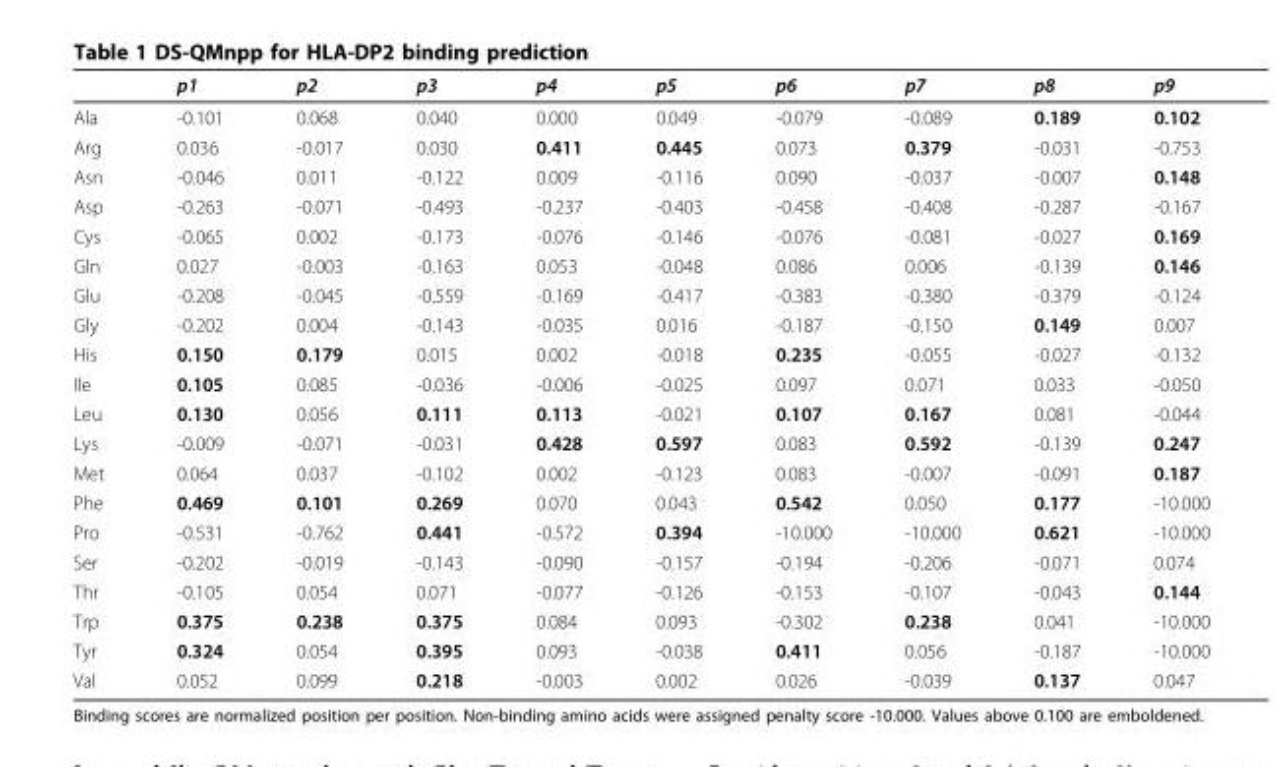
<table><thead><tr><td></td><td>p1</td><td>p2</td><td>p3</td><td>p4</td><td>p5</td><td>p6</td><td>p7</td><td>p8</td><td>p9</td></tr></thead><tbody><tr><td>Ala</td><td>-0.101</td><td>0.068</td><td>0.040</td><td>0.000</td><td>0.049</td><td>-0.079</td><td>-0.089</td><td>0.189</td><td>0.102</td></tr><tr><td>Arg</td><td>0.036</td><td>-0.017</td><td>0.030</td><td>0.411</td><td>0.445</td><td>0.073</td><td>0.379</td><td>-0.031</td><td>-0.753</td></tr><tr><td>Asn</td><td>-0.046</td><td>0.011</td><td>-0.122</td><td>0.009</td><td>-0.116</td><td>0.090</td><td>-0.037</td><td>-0.007</td><td>0.148</td></tr><tr><td>Asp</td><td>-0.263</td><td>-0.071</td><td>-0.493</td><td>-0.237</td><td>-0.403</td><td>-0.458</td><td>-0.408</td><td>-0.287</td><td>-0.167</td></tr><tr><td>Cys</td><td>-0.065</td><td>0.002</td><td>-0.173</td><td>-0.076</td><td>-0.146</td><td>-0.076</td><td>-0.081</td><td>-0.027</td><td>0.169</td></tr><tr><td>Gln</td><td>0.027</td><td>-0.003</td><td>-0.163</td><td>0.053</td><td>-0.048</td><td>0.086</td><td>0.006</td><td>-0.139</td><td>0.146</td></tr><tr><td>Glu</td><td>-0.208</td><td>-0.045</td><td>-0.559</td><td>-0.169</td><td>-0.417</td><td>-0.383</td><td>-0.380</td><td>-0.379</td><td>-0.124</td></tr><tr><td>Gly</td><td>-0.202</td><td>0.004</td><td>-0.143</td><td>-0.035</td><td>0.016</td><td>-0.187</td><td>-0.150</td><td>0.149</td><td>0.007</td></tr><tr><td>His</td><td>0.150</td><td>0.179</td><td>0.015</td><td>0.002</td><td>-0.018</td><td>0.235</td><td>-0.055</td><td>-0.027</td><td>-0.132</td></tr><tr><td>Ile</td><td>0.105</td><td>0.085</td><td>-0.036</td><td>-0.006</td><td>-0.025</td><td>0.097</td><td>0.071</td><td>0.033</td><td>-0.050</td></tr><tr><td>Leu</td><td>0.130</td><td>0.056</td><td>0.111</td><td>0.113</td><td>-0.021</td><td>0.107</td><td>0.167</td><td>0.081</td><td>-0.044</td></tr><tr><td>Lys</td><td>-0.009</td><td>-0.071</td><td>-0.031</td><td>0.428</td><td>0.597</td><td>0.083</td><td>0.592</td><td>-0.139</td><td>0.247</td></tr><tr><td>Met</td><td>0.064</td><td>0.037</td><td>-0.102</td><td>0.002</td><td>-0.123</td><td>0.083</td><td>-0.007</td><td>-0.091</td><td>0.187</td></tr><tr><td>Phe</td><td>0.469</td><td>0.101</td><td>0.269</td><td>0.070</td><td>0.043</td><td>0.542</td><td>0.050</td><td>0.177</td><td>-10.000</td></tr><tr><td>Pro</td><td>-0.531</td><td>-0.762</td><td>0.441</td><td>-0.572</td><td>0.394</td><td>-10.000</td><td>-10.000</td><td>0.621</td><td>-10.000</td></tr><tr><td>Ser</td><td>-0.202</td><td>-0.019</td><td>-0.143</td><td>-0.090</td><td>-0.157</td><td>-0.194</td><td>-0.206</td><td>-0.071</td><td>0.074</td></tr><tr><td>Thr</td><td>-0.105</td><td>0.054</td><td>0.071</td><td>-0.077</td><td>-0.126</td><td>-0.153</td><td>-0.107</td><td>-0.043</td><td>0.144</td></tr><tr><td>Trp</td><td>0.375</td><td>0.238</td><td>0.375</td><td>0.084</td><td>0.093</td><td>-0.302</td><td>0.238</td><td>0.041</td><td>-10.000</td></tr><tr><td>Tyr</td><td>0.324</td><td>0.054</td><td>0.395</td><td>0.093</td><td>-0.038</td><td>0.411</td><td>0.056</td><td>-0.187</td><td>-10.000</td></tr><tr><td>Val</td><td>0.052</td><td>0.099</td><td>0.218</td><td>-0.003</td><td>0.002</td><td>0.026</td><td>-0.039</td><td>0.137</td><td>0.047</td></tr></tbody></table>